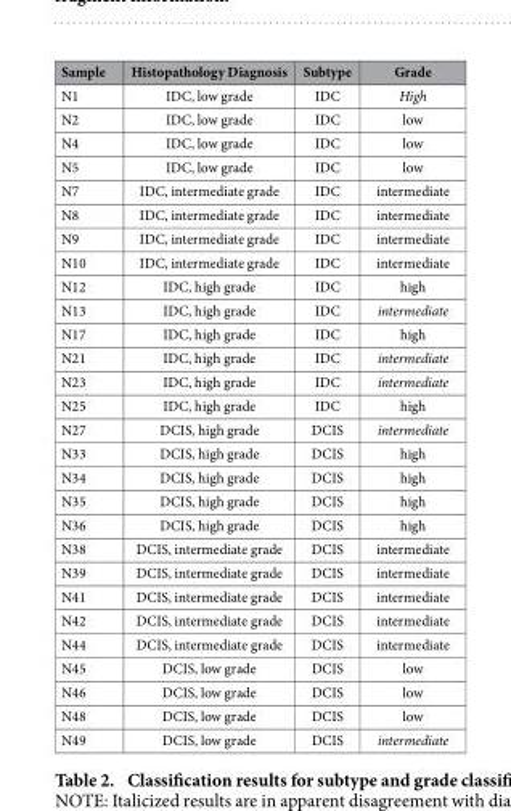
<table><thead><tr><td>Sample</td><td>Histopathology Diagnosis</td><td>Subtype</td><td>Grade</td></tr></thead><tbody><tr><td>N1</td><td>IDC, low grade</td><td>IDC</td><td>High</td></tr><tr><td>N2</td><td>IDC, low grade</td><td>IDC</td><td>low</td></tr><tr><td>N4</td><td>IDC, low grade</td><td>IDC</td><td>low</td></tr><tr><td>N5</td><td>IDC, low grade</td><td>IDC</td><td>low</td></tr><tr><td>N7</td><td>IDC, intermediate grade</td><td>IDC</td><td>intermediate</td></tr><tr><td>N8</td><td>IDC, intermediate grade</td><td>IDC</td><td>intermediate</td></tr><tr><td>N9</td><td>IDC, intermediate grade</td><td>IDC</td><td>intermediate</td></tr><tr><td>N10</td><td>IDC, intermediate grade</td><td>IDC</td><td>intermediate</td></tr><tr><td>N12</td><td>IDC, high grade</td><td>IDC</td><td>high</td></tr><tr><td>N13</td><td>IDC, high grade</td><td>IDC</td><td>intermediate</td></tr><tr><td>N17</td><td>IDC, high grade</td><td>IDC</td><td>high</td></tr><tr><td>N21</td><td>IDC, high grade</td><td>IDC</td><td>intermediate</td></tr><tr><td>N23</td><td>IDC, high grade</td><td>IDC</td><td>intermediate</td></tr><tr><td>N25</td><td>IDC, high grade</td><td>IDC</td><td>high</td></tr><tr><td>N27</td><td>DCIS, high grade</td><td>DCIS</td><td>intermediate</td></tr><tr><td>N33</td><td>DCIS, high grade</td><td>DCIS</td><td>high</td></tr><tr><td>N34</td><td>DCIS, high grade</td><td>DCIS</td><td>high</td></tr><tr><td>N35</td><td>DCIS, high grade</td><td>DCIS</td><td>high</td></tr><tr><td>N36</td><td>DCIS, high grade</td><td>DCIS</td><td>high</td></tr><tr><td>N38</td><td>DCIS, intermediate grade</td><td>DCIS</td><td>intermediate</td></tr><tr><td>N39</td><td>DCIS, intermediate grade</td><td>DCIS</td><td>intermediate</td></tr><tr><td>N41</td><td>DCIS, intermediate grade</td><td>DCIS</td><td>intermediate</td></tr><tr><td>N42</td><td>DCIS, intermediate grade</td><td>DCIS</td><td>intermediate</td></tr><tr><td>N44</td><td>DCIS, intermediate grade</td><td>DCIS</td><td>intermediate</td></tr><tr><td>N45</td><td>DCIS, low grade</td><td>DCIS</td><td>low</td></tr><tr><td>N46</td><td>DCIS, low grade</td><td>DCIS</td><td>low</td></tr><tr><td>N48</td><td>DCIS, low grade</td><td>DCIS</td><td>low</td></tr><tr><td>N49</td><td>DCIS, low grade</td><td>DCIS</td><td>intermediate</td></tr></tbody></table>